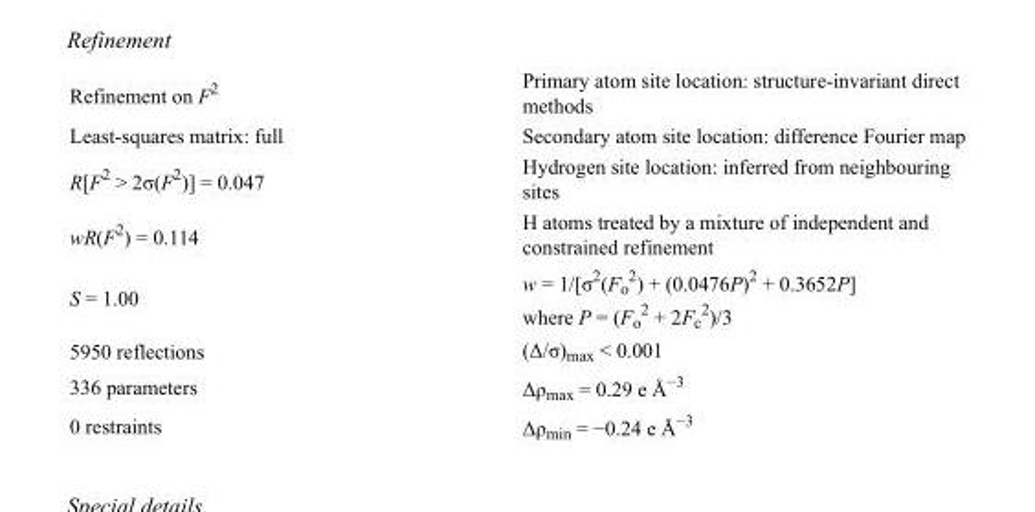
<table><tbody><tr><td>Refinement on F<sup>2</sup></td><td>Primary atom site location: structure-invariant direct methods</td></tr><tr><td>Least-squares matrix: full</td><td>Secondary atom site location: difference Fourier map</td></tr><tr><td>R[F<sup>2</sup> &gt; 2σ(F<sup>2</sup>)] = 0.047</td><td>Hydrogen site location: inferred from neighbouring sites</td></tr><tr><td>wR(F<sup>2</sup>) = 0.114</td><td>H atoms treated by a mixture of independent and constrained refinement</td></tr><tr><td>S = 1.00</td><td>w = 1/[σ<sup>2</sup>(F<sub>o</sub> <sup>2</sup>) + (0.0476P)<sup>2</sup> + 0.3652P] where P = (F<sub>o</sub> <sup>2</sup> + 2F<sub>c</sub> <sup>2</sup>)/3</td></tr><tr><td>5950 reflections</td><td>(Δ/σ)<sub>max</sub> &lt; 0.001</td></tr><tr><td>336 parameters</td><td>Δρ<sub>max</sub> = 0.29 e Å<sup>−3</sup></td></tr><tr><td>0 restraints</td><td>Δρ<sub>min</sub> = −0.24 e Å<sup>−3</sup></td></tr></tbody></table>